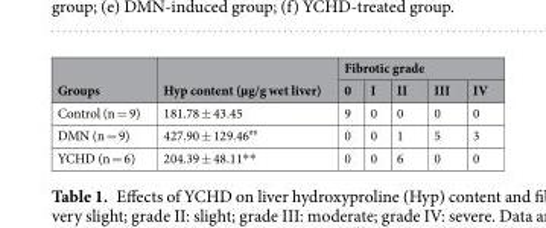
<table><thead><tr><td rowspan="2">Groups</td><td rowspan="2">Hyp content (µg/g wet liver)</td><td colspan="5">Fibrotic grade</td></tr><tr><td>0</td><td>I</td><td>II</td><td>III</td><td>IV</td></tr></thead><tbody><tr><td>Control (n = 9)</td><td>181.78 ± 43.45</td><td>9</td><td>0</td><td>0</td><td>0</td><td>0</td></tr><tr><td>DMN (n = 9)</td><td>427.90 ± 129.46<sup>##</sup></td><td>0</td><td>0</td><td>1</td><td>5</td><td>3</td></tr><tr><td>YCHD (n = 6)</td><td>204.39 ± 48.11**</td><td>0</td><td>0</td><td>6</td><td>0</td><td>0</td></tr></tbody></table>